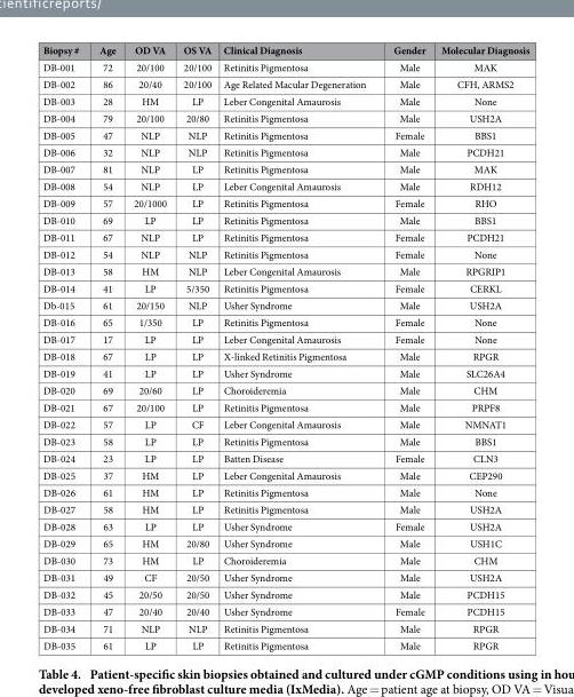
<table><thead><tr><td>Biopsy #</td><td>Age</td><td>OD VA</td><td>OS VA</td><td>Clinical Diagnosis</td><td>Gender</td><td>Molecular Diagnosis</td></tr></thead><tbody><tr><td>DB-001</td><td>72</td><td>20/100</td><td>20/100</td><td>Retinitis Pigmentosa</td><td>Male</td><td>MAK</td></tr><tr><td>DB-002</td><td>86</td><td>20/40</td><td>20/100</td><td>Age Related Macular Degeneration</td><td>Male</td><td>CFH, ARMS2</td></tr><tr><td>DB-003</td><td>28</td><td>HM</td><td>LP</td><td>Leber Congenital Amaurosis</td><td>Male</td><td>None</td></tr><tr><td>DB-004</td><td>79</td><td>20/100</td><td>20/80</td><td>Retinitis Pigmentosa</td><td>Male</td><td>USH2A</td></tr><tr><td>DB-005</td><td>47</td><td>NLP</td><td>NLP</td><td>Retinitis Pigmentosa</td><td>Female</td><td>BBS1</td></tr><tr><td>DB-006</td><td>32</td><td>NLP</td><td>NLP</td><td>Retinitis Pigmentosa</td><td>Male</td><td>PCDH21</td></tr><tr><td>DB-007</td><td>81</td><td>NLP</td><td>LP</td><td>Retinitis Pigmentosa</td><td>Male</td><td>MAK</td></tr><tr><td>DB-008</td><td>54</td><td>NLP</td><td>LP</td><td>Leber Congenital Amaurosis</td><td>Male</td><td>RDH12</td></tr><tr><td>DB-009</td><td>57</td><td>20/1000</td><td>LP</td><td>Retinitis Pigmentosa</td><td>Female</td><td>RHO</td></tr><tr><td>DB-010</td><td>69</td><td>LP</td><td>LP</td><td>Retinitis Pigmentosa</td><td>Male</td><td>BBS1</td></tr><tr><td>DB-011</td><td>67</td><td>NLP</td><td>LP</td><td>Retinitis Pigmentosa</td><td>Female</td><td>PCDH21</td></tr><tr><td>DB-012</td><td>54</td><td>NLP</td><td>NLP</td><td>Retinitis Pigmentosa</td><td>Female</td><td>None</td></tr><tr><td>DB-013</td><td>58</td><td>HM</td><td>NLP</td><td>Leber Congenital Amaurosis</td><td>Male</td><td>RPGRIP1</td></tr><tr><td>DB-014</td><td>41</td><td>LP</td><td>5/350</td><td>Retinitis Pigmentosa</td><td>Female</td><td>CERKL</td></tr><tr><td>Db-015</td><td>61</td><td>20/150</td><td>NLP</td><td>Usher Syndrome</td><td>Male</td><td>USH2A</td></tr><tr><td>DB-016</td><td>65</td><td>1/350</td><td>LP</td><td>Retinitis Pigmentosa</td><td>Female</td><td>None</td></tr><tr><td>DB-017</td><td>17</td><td>LP</td><td>LP</td><td>Leber Congenital Amaurosis</td><td>Female</td><td>None</td></tr><tr><td>DB-018</td><td>67</td><td>LP</td><td>LP</td><td>X-linked Retinitis Pigmentosa</td><td>Male</td><td>RPGR</td></tr><tr><td>DB-019</td><td>41</td><td>LP</td><td>LP</td><td>Usher Syndrome</td><td>Male</td><td>SLC26A4</td></tr><tr><td>DB-020</td><td>69</td><td>20/60</td><td>LP</td><td>Choroideremia</td><td>Male</td><td>CHM</td></tr><tr><td>DB-021</td><td>67</td><td>20/100</td><td>LP</td><td>Retinitis Pigmentosa</td><td>Male</td><td>PRPF8</td></tr><tr><td>DB-022</td><td>57</td><td>LP</td><td>CF</td><td>Leber Congenital Amaurosis</td><td>Male</td><td>NMNAT1</td></tr><tr><td>DB-023</td><td>58</td><td>LP</td><td>LP</td><td>Retinitis Pigmentosa</td><td>Male</td><td>BBS1</td></tr><tr><td>DB-024</td><td>23</td><td>LP</td><td>LP</td><td>Batten Disease</td><td>Female</td><td>CLN3</td></tr><tr><td>DB-025</td><td>37</td><td>HM</td><td>LP</td><td>Leber Congenital Amaurosis</td><td>Male</td><td>CEP290</td></tr><tr><td>DB-026</td><td>61</td><td>HM</td><td>LP</td><td>Retinitis Pigmentosa</td><td>Male</td><td>None</td></tr><tr><td>DB-027</td><td>58</td><td>HM</td><td>LP</td><td>Retinitis Pigmentosa</td><td>Male</td><td>USH2A</td></tr><tr><td>DB-028</td><td>63</td><td>LP</td><td>LP</td><td>Usher Syndrome</td><td>Female</td><td>USH2A</td></tr><tr><td>DB-029</td><td>65</td><td>HM</td><td>20/80</td><td>Usher Syndrome</td><td>Male</td><td>USH1C</td></tr><tr><td>DB-030</td><td>73</td><td>HM</td><td>LP</td><td>Choroideremia</td><td>Male</td><td>CHM</td></tr><tr><td>DB-031</td><td>49</td><td>CF</td><td>20/50</td><td>Usher Syndrome</td><td>Male</td><td>USH2A</td></tr><tr><td>DB-032</td><td>45</td><td>20/50</td><td>20/50</td><td>Usher Syndrome</td><td>Male</td><td>PCDH15</td></tr><tr><td>DB-033</td><td>47</td><td>20/40</td><td>20/40</td><td>Usher Syndrome</td><td>Female</td><td>PCDH15</td></tr><tr><td>DB-034</td><td>71</td><td>NLP</td><td>NLP</td><td>Retinitis Pigmentosa</td><td>Male</td><td>RPGR</td></tr><tr><td>DB-035</td><td>61</td><td>LP</td><td>LP</td><td>Retinitis Pigmentosa</td><td>Male</td><td>RPGR</td></tr></tbody></table>